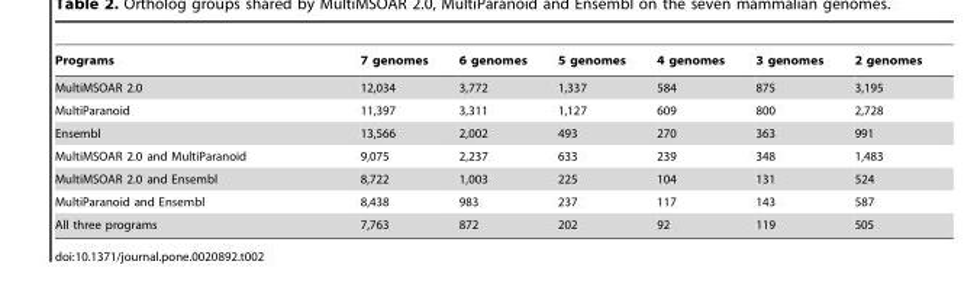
<table><thead><tr><td>Programs</td><td>7 genomes</td><td>6 genomes</td><td>5 genomes</td><td>4 genomes</td><td>3 genomes</td><td>2 genomes</td></tr></thead><tbody><tr><td>MultiMSOAR 2.0</td><td>12,034</td><td>3,772</td><td>1,337</td><td>584</td><td>875</td><td>3,195</td></tr><tr><td>MultiParanoid</td><td>11,397</td><td>3,311</td><td>1,127</td><td>609</td><td>800</td><td>2,728</td></tr><tr><td>Ensembl</td><td>13,566</td><td>2,002</td><td>493</td><td>270</td><td>363</td><td>991</td></tr><tr><td>MultiMSOAR 2.0 and MultiParanoid</td><td>9,075</td><td>2,237</td><td>633</td><td>239</td><td>348</td><td>1,483</td></tr><tr><td>MultiMSOAR 2.0 and Ensembl</td><td>8,722</td><td>1,003</td><td>225</td><td>104</td><td>131</td><td>524</td></tr><tr><td>MultiParanoid and Ensembl</td><td>8,438</td><td>983</td><td>237</td><td>117</td><td>143</td><td>587</td></tr><tr><td>All three programs</td><td>7,763</td><td>872</td><td>202</td><td>92</td><td>119</td><td>505</td></tr></tbody></table>